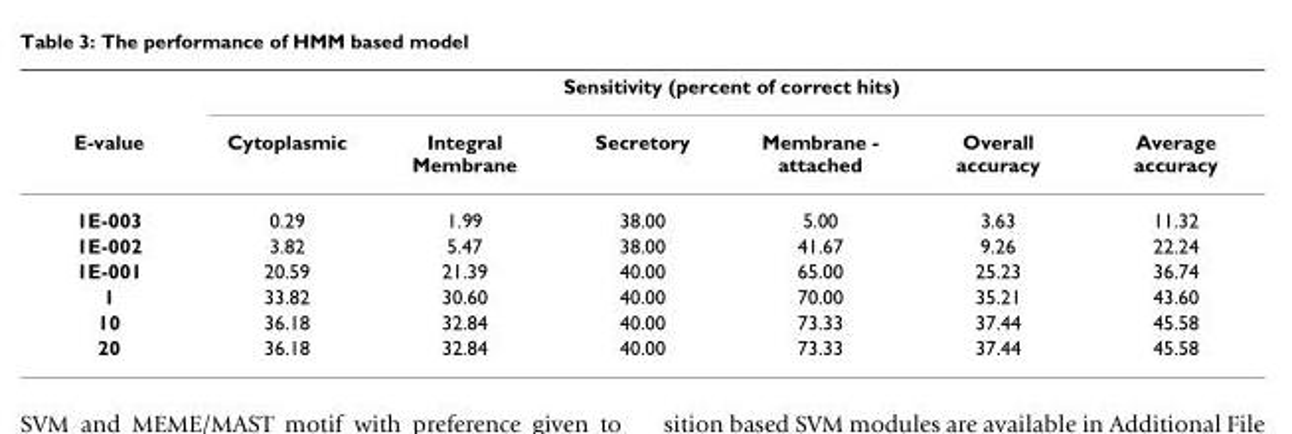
<table><thead><tr><td rowspan="2">E-value</td><td colspan="6">Sensitivity (percent of correct hits)</td></tr><tr><td>Cytoplasmic</td><td>Integral Membrane</td><td>Secretory</td><td>Membrane - attached</td><td>Overall accuracy</td><td>Average accuracy</td></tr></thead><tbody><tr><td>1E-003</td><td>0.29</td><td>1.99</td><td>38.00</td><td>5.00</td><td>3.63</td><td>11.32</td></tr><tr><td>1E-002</td><td>3.82</td><td>5.47</td><td>38.00</td><td>41.67</td><td>9.26</td><td>22.24</td></tr><tr><td>1E-001</td><td>20.59</td><td>21.39</td><td>40.00</td><td>65.00</td><td>25.23</td><td>36.74</td></tr><tr><td>1</td><td>33.82</td><td>30.60</td><td>40.00</td><td>70.00</td><td>35.21</td><td>43.60</td></tr><tr><td>10</td><td>36.18</td><td>32.84</td><td>40.00</td><td>73.33</td><td>37.44</td><td>45.58</td></tr><tr><td>20</td><td>36.18</td><td>32.84</td><td>40.00</td><td>73.33</td><td>37.44</td><td>45.58</td></tr></tbody></table>